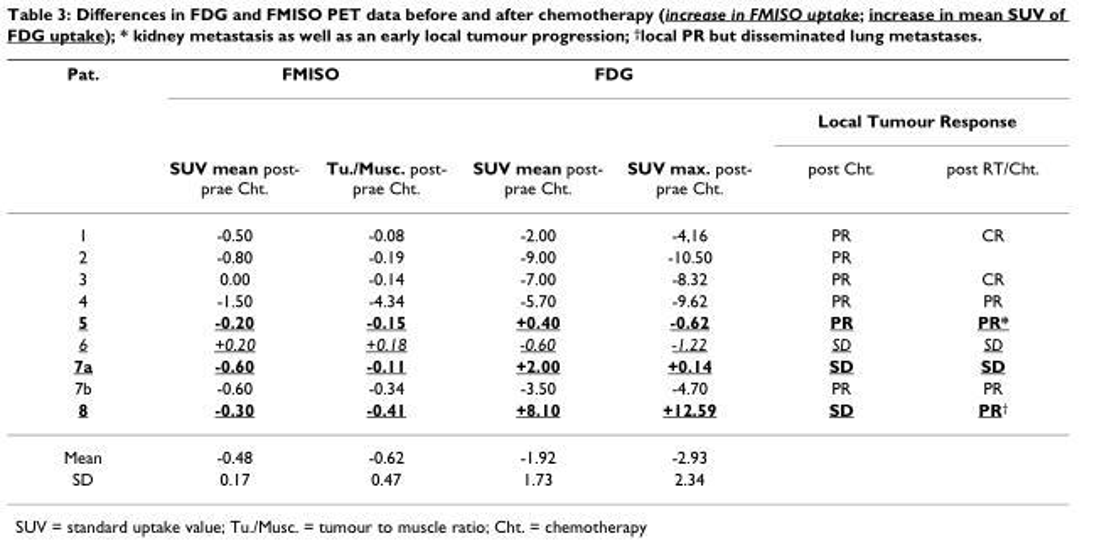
<table><thead><tr><td rowspan="3">Pat.</td><td colspan="2">FMISO</td><td colspan="2">FDG</td><td></td><td></td></tr><tr><td rowspan="2">SUV mean post- prae Cht.</td><td rowspan="2">Tu./Musc. post- prae Cht.</td><td rowspan="2">SUV mean post- prae Cht.</td><td rowspan="2">SUV max. post- prae Cht.</td><td colspan="2">Local Tumour Response</td></tr><tr><td>post Cht.</td><td>post RT/Cht.</td></tr></thead><tbody><tr><td>1</td><td>-0.50</td><td>-0.08</td><td>-2.00</td><td>-4,16</td><td>PR</td><td>CR</td></tr><tr><td>2</td><td>-0.80</td><td>-0.19</td><td>-9.00</td><td>-10.50</td><td>PR</td><td></td></tr><tr><td>3</td><td>0.00</td><td>-0.14</td><td>-7.00</td><td>-8.32</td><td>PR</td><td>CR</td></tr><tr><td>4</td><td>-1.50</td><td>-4.34</td><td>-5.70</td><td>-9.62</td><td>PR</td><td>PR</td></tr><tr><td>5</td><td>-0.20</td><td>-0.15</td><td>+0.40</td><td>-0.62</td><td>PR</td><td>PR*</td></tr><tr><td>6</td><td>+0.20</td><td>+0.18</td><td>-0.60</td><td>-1.22</td><td>SD</td><td>SD</td></tr><tr><td>7a</td><td>-0.60</td><td>-0.11</td><td>+2.00</td><td>+0.14</td><td>SD</td><td>SD</td></tr><tr><td>7b</td><td>-0.60</td><td>-0.34</td><td>-3.50</td><td>-4.70</td><td>PR</td><td>PR</td></tr><tr><td>8</td><td>-0.30</td><td>-0.41</td><td>+8.10</td><td>+12.59</td><td>SD</td><td>PR†</td></tr><tr><td>Mean</td><td>-0.48</td><td>-0.62</td><td>-1.92</td><td>-2.93</td><td></td><td></td></tr><tr><td>SD</td><td>0.17</td><td>0.47</td><td>1.73</td><td>2.34</td><td></td><td></td></tr></tbody></table>